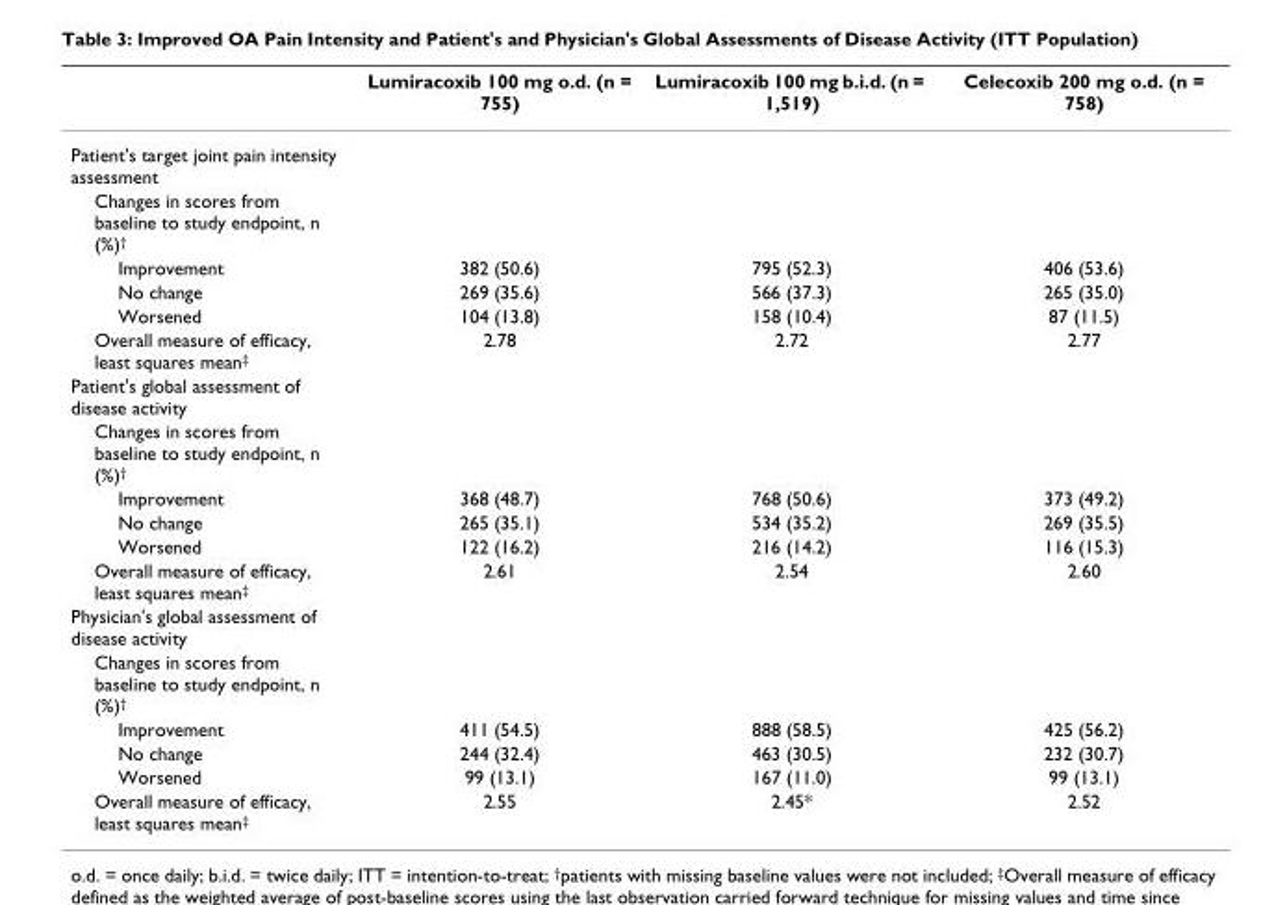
<table><thead><tr><td></td><td>Lumiracoxib 100 mg o.d. (n = 755)</td><td>Lumiracoxib 100 mg b.i.d. (n = 1,519)</td><td>Celecoxib 200 mg o.d. (n = 758)</td></tr></thead><tbody><tr><td colspan="4">Patient&#x27;s target joint pain intensity assessment</td></tr><tr><td colspan="4">Changes in scores from baseline to study endpoint, n (%)<sup>†</sup></td></tr><tr><td>Improvement</td><td>382 (50.6)</td><td>795 (52.3)</td><td>406 (53.6)</td></tr><tr><td>No change</td><td>269 (35.6)</td><td>566 (37.3)</td><td>265 (35.0)</td></tr><tr><td>Worsened</td><td>104 (13.8)</td><td>158 (10.4)</td><td>87 (11.5)</td></tr><tr><td>Overall measure of efficacy, least squares mean<sup>‡</sup></td><td>2.78</td><td>2.72</td><td>2.77</td></tr><tr><td colspan="4">Patient&#x27;s global assessment of disease activity</td></tr><tr><td colspan="4">Changes in scores from baseline to study endpoint, n (%)<sup>†</sup></td></tr><tr><td>Improvement</td><td>368 (48.7)</td><td>768 (50.6)</td><td>373 (49.2)</td></tr><tr><td>No change</td><td>265 (35.1)</td><td>534 (35.2)</td><td>269 (35.5)</td></tr><tr><td>Worsened</td><td>122 (16.2)</td><td>216 (14.2)</td><td>116 (15.3)</td></tr><tr><td>Overall measure of efficacy, least squares mean<sup>‡</sup></td><td>2.61</td><td>2.54</td><td>2.60</td></tr><tr><td colspan="4">Physician&#x27;s global assessment of disease activity</td></tr><tr><td colspan="4">Changes in scores from baseline to study endpoint, n (%)<sup>†</sup></td></tr><tr><td>Improvement</td><td>411 (54.5)</td><td>888 (58.5)</td><td>425 (56.2)</td></tr><tr><td>No change</td><td>244 (32.4)</td><td>463 (30.5)</td><td>232 (30.7)</td></tr><tr><td>Worsened</td><td>99 (13.1)</td><td>167 (11.0)</td><td>99 (13.1)</td></tr><tr><td>Overall measure of efficacy, least squares mean<sup>‡</sup></td><td>2.55</td><td>2.45*</td><td>2.52</td></tr></tbody></table>